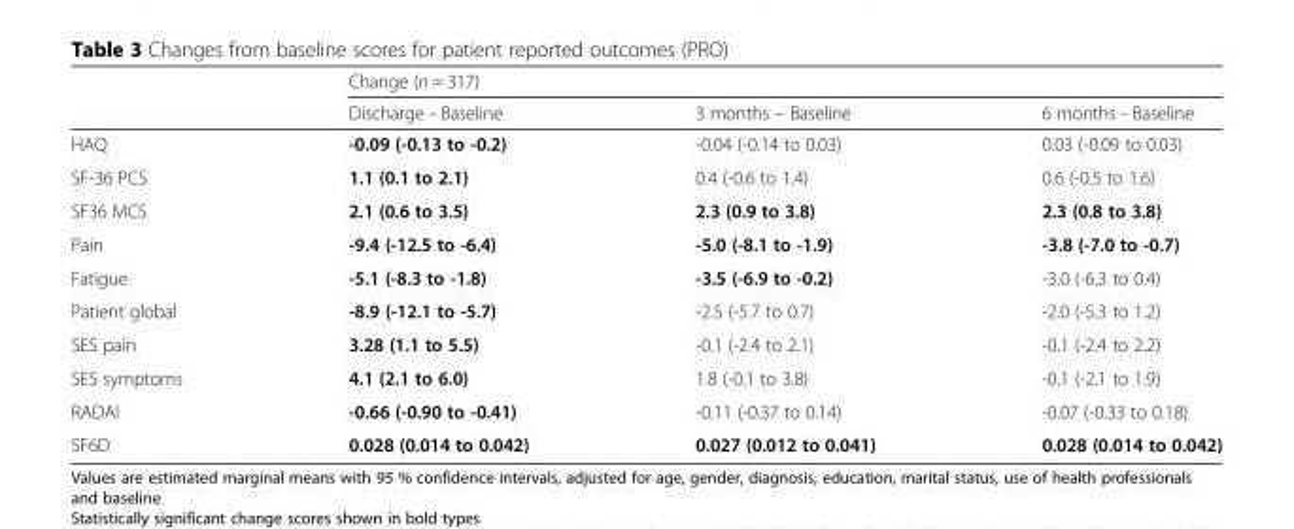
<table><thead><tr><td rowspan="2"></td><td colspan="3">Change (n = 317)</td></tr><tr><td>Discharge - Baseline</td><td>3 months – Baseline</td><td>6 months - Baseline</td></tr></thead><tbody><tr><td>HAQ</td><td>-0.09 (-0.13 to -0.2)</td><td>-0.04 (-0.14 to 0.03)</td><td>0.03 (-0.09 to 0.03)</td></tr><tr><td>SF-36 PCS</td><td>1.1 (0.1 to 2.1)</td><td>0.4 (-0.6 to 1.4)</td><td>0.6 (-0.5 to 1.6)</td></tr><tr><td>SF36 MCS</td><td>2.1 (0.6 to 3.5)</td><td>2.3 (0.9 to 3.8)</td><td>2.3 (0.8 to 3.8)</td></tr><tr><td>Pain</td><td>-9.4 (-12.5 to -6.4)</td><td>-5.0 (-8.1 to -1.9)</td><td>-3.8 (-7.0 to -0.7)</td></tr><tr><td>Fatigue</td><td>-5.1 (-8.3 to -1.8)</td><td>-3.5 (-6.9 to -0.2)</td><td>-3.0 (-6.3 to 0.4)</td></tr><tr><td>Patient global</td><td>-8.9 (-12.1 to -5.7)</td><td>-2.5 (-5.7 to 0.7)</td><td>-2.0 (-5.3 to 1.2)</td></tr><tr><td>SES pain</td><td>3.28 (1.1 to 5.5)</td><td>-0.1 (-2.4 to 2.1)</td><td>-0.1 (-2.4 to 2.2)</td></tr><tr><td>SES symptoms</td><td>4.1 (2.1 to 6.0)</td><td>1.8 (-0.1 to 3.8)</td><td>-0.1 (-2.1 to 1.9)</td></tr><tr><td>RADAI</td><td>-0.66 (-0.90 to -0.41)</td><td>-0.11 (-0.37 to 0.14)</td><td>-0.07 (-0.33 to 0.18)</td></tr><tr><td>SF6D</td><td>0.028 (0.014 to 0.042)</td><td>0.027 (0.012 to 0.041)</td><td>0.028 (0.014 to 0.042)</td></tr></tbody></table>